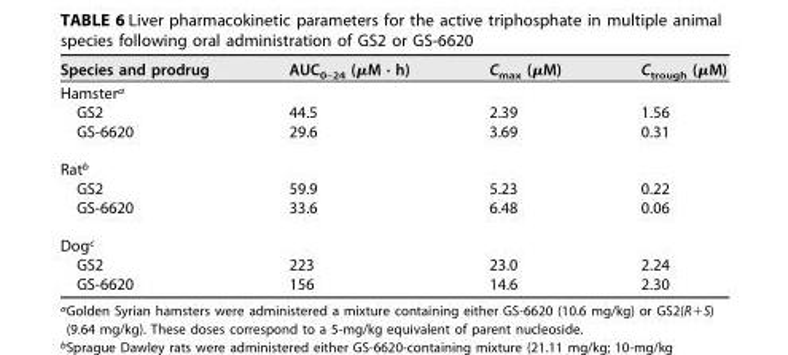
<table><thead><tr><td>Species and prodrug</td><td>AUC<sub>0–24</sub> (μM · h)</td><td>C<sub>max</sub> (μM)</td><td>C<sub>trough</sub> (μM)</td></tr></thead><tbody><tr><td colspan="4">Hamster<sup>a</sup></td></tr><tr><td>GS2</td><td>44.5</td><td>2.39</td><td>1.56</td></tr><tr><td>GS-6620</td><td>29.6</td><td>3.69</td><td>0.31</td></tr><tr><td colspan="4">Rat<sup>b</sup></td></tr><tr><td>GS2</td><td>59.9</td><td>5.23</td><td>0.22</td></tr><tr><td>GS-6620</td><td>33.6</td><td>6.48</td><td>0.06</td></tr><tr><td colspan="4">Dog<sup>c</sup></td></tr><tr><td>GS2</td><td>223</td><td>23.0</td><td>2.24</td></tr><tr><td>GS-6620</td><td>156</td><td>14.6</td><td>2.30</td></tr></tbody></table>